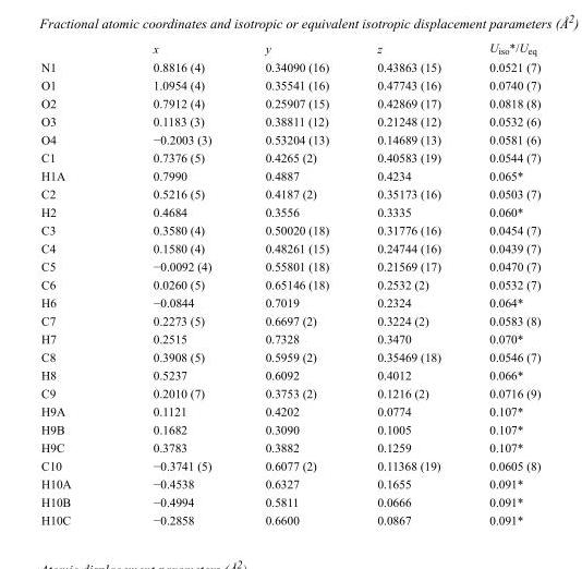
<table><thead><tr><td></td><td>x</td><td>y</td><td>z</td><td>U<sub>iso</sub>*/U<sub>eq</sub></td></tr></thead><tbody><tr><td>N1</td><td>0.8816 (4)</td><td>0.34090 (16)</td><td>0.43863 (15)</td><td>0.0521 (7)</td></tr><tr><td>O1</td><td>1.0954 (4)</td><td>0.35541 (16)</td><td>0.47743 (16)</td><td>0.0740 (7)</td></tr><tr><td>O2</td><td>0.7912 (4)</td><td>0.25907 (15)</td><td>0.42869 (17)</td><td>0.0818 (8)</td></tr><tr><td>O3</td><td>0.1183 (3)</td><td>0.38811 (12)</td><td>0.21248 (12)</td><td>0.0532 (6)</td></tr><tr><td>O4</td><td>−0.2003 (3)</td><td>0.53204 (13)</td><td>0.14689 (13)</td><td>0.0581 (6)</td></tr><tr><td>C1</td><td>0.7376 (5)</td><td>0.4265 (2)</td><td>0.40583 (19)</td><td>0.0544 (7)</td></tr><tr><td>H1A</td><td>0.7990</td><td>0.4887</td><td>0.4234</td><td>0.065*</td></tr><tr><td>C2</td><td>0.5216 (5)</td><td>0.4187 (2)</td><td>0.35173 (16)</td><td>0.0503 (7)</td></tr><tr><td>H2</td><td>0.4684</td><td>0.3556</td><td>0.3335</td><td>0.060*</td></tr><tr><td>C3</td><td>0.3580 (4)</td><td>0.50020 (18)</td><td>0.31776 (16)</td><td>0.0454 (7)</td></tr><tr><td>C4</td><td>0.1580 (4)</td><td>0.48261 (15)</td><td>0.24744 (16)</td><td>0.0439 (7)</td></tr><tr><td>C5</td><td>−0.0092 (4)</td><td>0.55801 (18)</td><td>0.21569 (17)</td><td>0.0470 (7)</td></tr><tr><td>C6</td><td>0.0260 (5)</td><td>0.65146 (18)</td><td>0.2532 (2)</td><td>0.0532 (7)</td></tr><tr><td>H6</td><td>−0.0844</td><td>0.7019</td><td>0.2324</td><td>0.064*</td></tr><tr><td>C7</td><td>0.2273 (5)</td><td>0.6697 (2)</td><td>0.3224 (2)</td><td>0.0583 (8)</td></tr><tr><td>H7</td><td>0.2515</td><td>0.7328</td><td>0.3470</td><td>0.070*</td></tr><tr><td>C8</td><td>0.3908 (5)</td><td>0.5959 (2)</td><td>0.35469 (18)</td><td>0.0546 (7)</td></tr><tr><td>H8</td><td>0.5237</td><td>0.6092</td><td>0.4012</td><td>0.066*</td></tr><tr><td>C9</td><td>0.2010 (7)</td><td>0.3753 (2)</td><td>0.1216 (2)</td><td>0.0716 (9)</td></tr><tr><td>H9A</td><td>0.1121</td><td>0.4202</td><td>0.0774</td><td>0.107*</td></tr><tr><td>H9B</td><td>0.1682</td><td>0.3090</td><td>0.1005</td><td>0.107*</td></tr><tr><td>H9C</td><td>0.3783</td><td>0.3882</td><td>0.1259</td><td>0.107*</td></tr><tr><td>C10</td><td>−0.3741 (5)</td><td>0.6077 (2)</td><td>0.11368 (19)</td><td>0.0605 (8)</td></tr><tr><td>H10A</td><td>−0.4538</td><td>0.6327</td><td>0.1655</td><td>0.091*</td></tr><tr><td>H10B</td><td>−0.4994</td><td>0.5811</td><td>0.0666</td><td>0.091*</td></tr><tr><td>H10C</td><td>−0.2858</td><td>0.6600</td><td>0.0867</td><td>0.091*</td></tr></tbody></table>